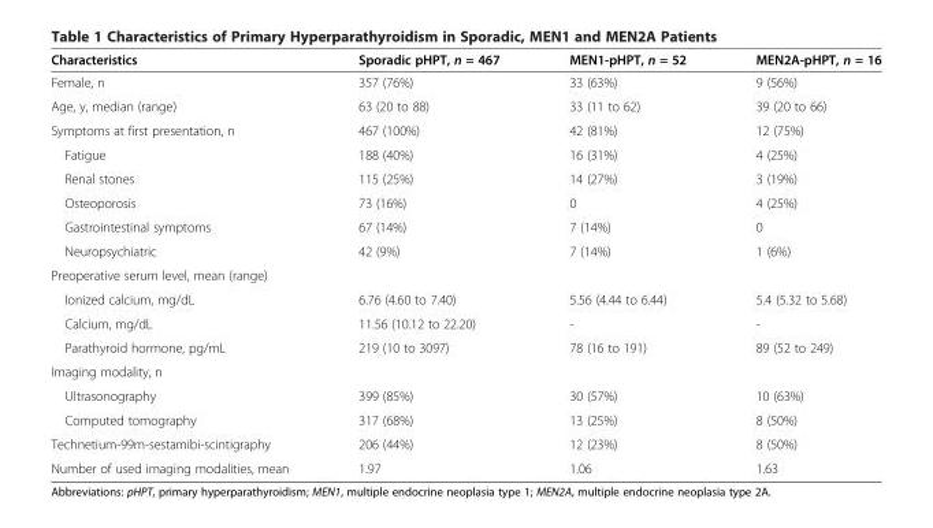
<table><thead><tr><td>Characteristics</td><td>Sporadic pHPT, n = 467</td><td>MEN1-pHPT, n = 52</td><td>MEN2A-pHPT, n = 16</td></tr></thead><tbody><tr><td>Female, n</td><td>357 (76%)</td><td>33 (63%)</td><td>9 (56%)</td></tr><tr><td>Age, y, median (range)</td><td>63 (20 to 88)</td><td>33 (11 to 62)</td><td>39 (20 to 66)</td></tr><tr><td>Symptoms at first presentation, n</td><td>467 (100%)</td><td>42 (81%)</td><td>12 (75%)</td></tr><tr><td>Fatigue</td><td>188 (40%)</td><td>16 (31%)</td><td>4 (25%)</td></tr><tr><td>Renal stones</td><td>115 (25%)</td><td>14 (27%)</td><td>3 (19%)</td></tr><tr><td>Osteoporosis</td><td>73 (16%)</td><td>0</td><td>4 (25%)</td></tr><tr><td>Gastrointestinal symptoms</td><td>67 (14%)</td><td>7 (14%)</td><td>0</td></tr><tr><td>Neuropsychiatric</td><td>42 (9%)</td><td>7 (14%)</td><td>1 (6%)</td></tr><tr><td colspan="4">Preoperative serum level, mean (range)</td></tr><tr><td>Ionized calcium, mg/dL</td><td>6.76 (4.60 to 7.40)</td><td>5.56 (4.44 to 6.44)</td><td>5.4 (5.32 to 5.68)</td></tr><tr><td>Calcium, mg/dL</td><td>11.56 (10.12 to 22.20)</td><td>-</td><td>-</td></tr><tr><td>Parathyroid hormone, pg/mL</td><td>219 (10 to 3097)</td><td>78 (16 to 191)</td><td>89 (52 to 249)</td></tr><tr><td colspan="4">Imaging modality, n</td></tr><tr><td>Ultrasonography</td><td>399 (85%)</td><td>30 (57%)</td><td>10 (63%)</td></tr><tr><td>Computed tomography</td><td>317 (68%)</td><td>13 (25%)</td><td>8 (50%)</td></tr><tr><td>Technetium-99m-sestamibi-scintigraphy</td><td>206 (44%)</td><td>12 (23%)</td><td>8 (50%)</td></tr><tr><td>Number of used imaging modalities, mean</td><td>1.97</td><td>1.06</td><td>1.63</td></tr></tbody></table>